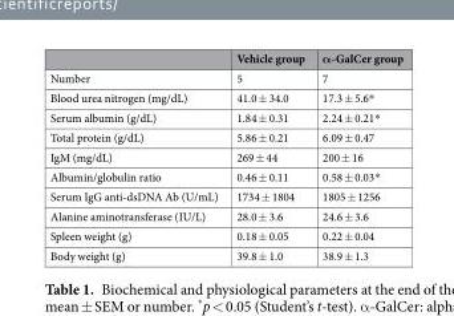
<table><thead><tr><td></td><td>Vehicle group</td><td>α-GalCer group</td></tr></thead><tbody><tr><td>Number</td><td>5</td><td>7</td></tr><tr><td>Blood urea nitrogen (mg/dL)</td><td>41.0 ± 34.0</td><td>17.3 ± 5.6*</td></tr><tr><td>Serum albumin (g/dL)</td><td>1.84 ± 0.31</td><td>2.24 ± 0.21*</td></tr><tr><td>Total protein (g/dL)</td><td>5.86 ± 0.21</td><td>6.09 ± 0.47</td></tr><tr><td>IgM (mg/dL)</td><td>269 ± 44</td><td>200 ± 16</td></tr><tr><td>Albumin/globulin ratio</td><td>0.46 ± 0.11</td><td>0.58 ± 0.03*</td></tr><tr><td>Serum IgG anti-dsDNA Ab (U/mL)</td><td>1734 ± 1804</td><td>1805 ± 1256</td></tr><tr><td>Alanine aminotransferase (IU/L)</td><td>28.0 ± 3.6</td><td>24.6 ± 3.6</td></tr><tr><td>Spleen weight (g)</td><td>0.18 ± 0.05</td><td>0.22 ± 0.04</td></tr><tr><td>Body weight (g)</td><td>39.8 ± 1.0</td><td>38.9 ± 1.3</td></tr></tbody></table>